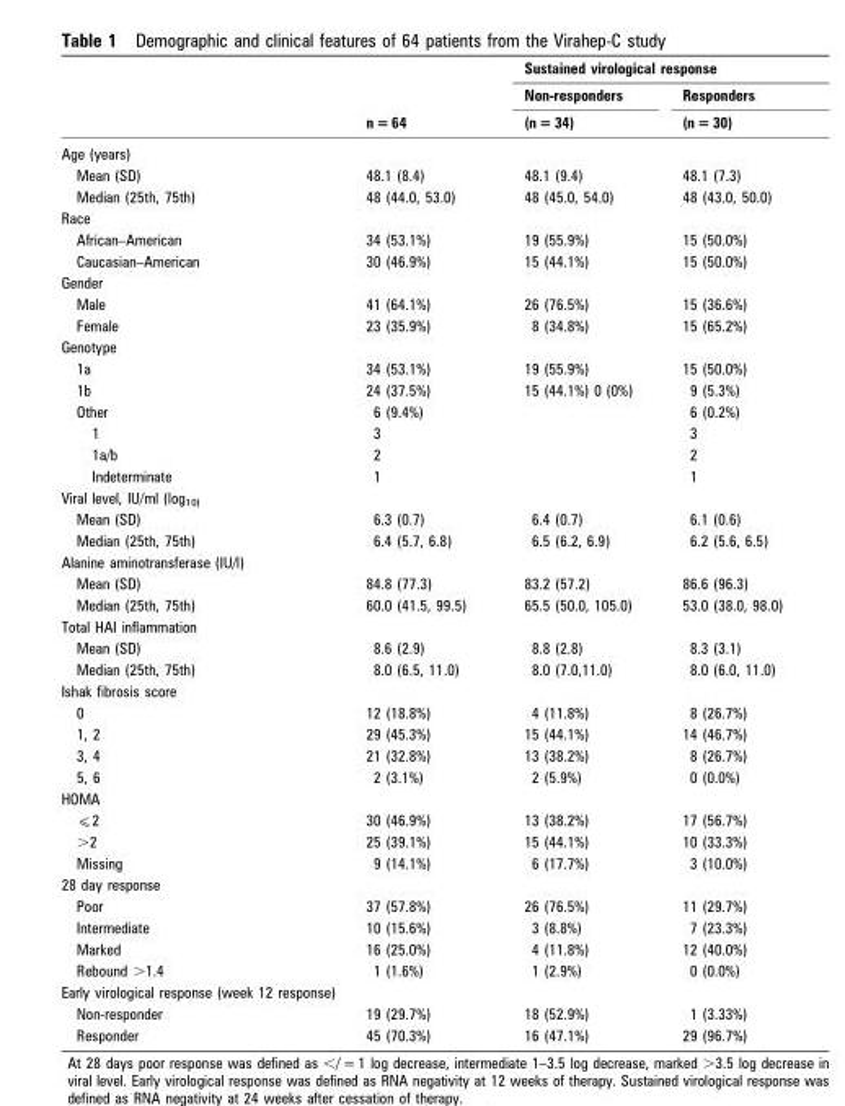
<table><thead><tr><td rowspan="3"></td><td rowspan="3">n = 64</td><td colspan="2">Sustained virological response</td></tr><tr><td rowspan="2">Non-responders (n = 34)</td><td rowspan="2">Responders (n = 30)</td></tr><tr></tr></thead><tbody><tr><td colspan="4">Age (years)</td></tr><tr><td>Mean (SD)</td><td>48.1 (8.4)</td><td>48.1 (9.4)</td><td>48.1 (7.3)</td></tr><tr><td>Median (25th, 75th)</td><td>48 (44.0, 53.0)</td><td>48 (45.0, 54.0)</td><td>48 (43.0, 50.0)</td></tr><tr><td colspan="4">Race</td></tr><tr><td>African–American</td><td>34 (53.1%)</td><td>19 (55.9%)</td><td>15 (50.0%)</td></tr><tr><td>Caucasian–American</td><td>30 (46.9%)</td><td>15 (44.1%)</td><td>15 (50.0%)</td></tr><tr><td colspan="4">Gender</td></tr><tr><td>Male</td><td>41 (64.1%)</td><td>26 (76.5%)</td><td>15 (36.6%)</td></tr><tr><td>Female</td><td>23 (35.9%)</td><td>8 (34.8%)</td><td>15 (65.2%)</td></tr><tr><td colspan="4">Genotype</td></tr><tr><td>1a</td><td>34 (53.1%)</td><td>19 (55.9%)</td><td>15 (50.0%)</td></tr><tr><td>1b</td><td>24 (37.5%)</td><td>15 (44.1%) 0 (0%)</td><td>9 (5.3%)</td></tr><tr><td>Other</td><td>6 (9.4%)</td><td></td><td>6 (0.2%)</td></tr><tr><td>1</td><td>3</td><td></td><td>3</td></tr><tr><td>1a/b</td><td>2</td><td></td><td>2</td></tr><tr><td>Indeterminate</td><td>1</td><td></td><td>1</td></tr><tr><td colspan="4">Viral level, IU/ml (log<sub>10)</sub></td></tr><tr><td>Mean (SD)</td><td>6.3 (0.7)</td><td>6.4 (0.7)</td><td>6.1 (0.6)</td></tr><tr><td>Median (25th, 75th)</td><td>6.4 (5.7, 6.8)</td><td>6.5 (6.2, 6.9)</td><td>6.2 (5.6, 6.5)</td></tr><tr><td colspan="4">Alanine aminotransferase (IU/l)</td></tr><tr><td>Mean (SD)</td><td>84.8 (77.3)</td><td>83.2 (57.2)</td><td>86.6 (96.3)</td></tr><tr><td>Median (25th, 75th)</td><td>60.0 (41.5, 99.5)</td><td>65.5 (50.0, 105.0)</td><td>53.0 (38.0, 98.0)</td></tr><tr><td colspan="4">Total HAI inflammation</td></tr><tr><td>Mean (SD)</td><td>8.6 (2.9)</td><td>8.8 (2.8)</td><td>8.3 (3.1)</td></tr><tr><td>Median (25th, 75th)</td><td>8.0 (6.5, 11.0)</td><td>8.0 (7.0,11.0)</td><td>8.0 (6.0, 11.0)</td></tr><tr><td colspan="4">Ishak fibrosis score</td></tr><tr><td>0</td><td>12 (18.8%)</td><td>4 (11.8%)</td><td>8 (26.7%)</td></tr><tr><td>1, 2</td><td>29 (45.3%)</td><td>15 (44.1%)</td><td>14 (46.7%)</td></tr><tr><td>3, 4</td><td>21 (32.8%)</td><td>13 (38.2%)</td><td>8 (26.7%)</td></tr><tr><td>5, 6</td><td>2 (3.1%)</td><td>2 (5.9%)</td><td>0 (0.0%)</td></tr><tr><td colspan="4">HOMA</td></tr><tr><td>⩽2</td><td>30 (46.9%)</td><td>13 (38.2%)</td><td>17 (56.7%)</td></tr><tr><td>&gt;2</td><td>25 (39.1%)</td><td>15 (44.1%)</td><td>10 (33.3%)</td></tr><tr><td>Missing</td><td>9 (14.1%)</td><td>6 (17.7%)</td><td>3 (10.0%)</td></tr><tr><td colspan="4">28 day response</td></tr><tr><td>Poor</td><td>37 (57.8%)</td><td>26 (76.5%)</td><td>11 (29.7%)</td></tr><tr><td>Intermediate</td><td>10 (15.6%)</td><td>3 (8.8%)</td><td>7 (23.3%)</td></tr><tr><td>Marked</td><td>16 (25.0%)</td><td>4 (11.8%)</td><td>12 (40.0%)</td></tr><tr><td>Rebound &gt;1.4</td><td>1 (1.6%)</td><td>1 (2.9%)</td><td>0 (0.0%)</td></tr><tr><td colspan="4">Early virological response (week 12 response)</td></tr><tr><td>Non-responder</td><td>19 (29.7%)</td><td>18 (52.9%)</td><td>1 (3.33%)</td></tr><tr><td>Responder</td><td>45 (70.3%)</td><td>16 (47.1%)</td><td>29 (96.7%)</td></tr></tbody></table>